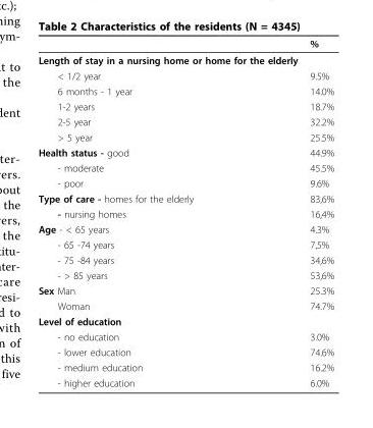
<table><thead><tr><td></td><td>%</td></tr></thead><tbody><tr><td colspan="2">Length of stay in a nursing home or home for the elderly</td></tr><tr><td>&lt; 1/2 year</td><td>9.5%</td></tr><tr><td>6 months - 1 year</td><td>14.0%</td></tr><tr><td>1-2 years</td><td>18.7%</td></tr><tr><td>2-5 year</td><td>32.2%</td></tr><tr><td>&gt; 5 year</td><td>25.5%</td></tr><tr><td>Health status - good</td><td>44.9%</td></tr><tr><td>- moderate</td><td>45.5%</td></tr><tr><td>- poor</td><td>9.6%</td></tr><tr><td>Type of care - homes for the elderly</td><td>83,6%</td></tr><tr><td>- nursing homes</td><td>16,4%</td></tr><tr><td>Age - &lt; 65 years</td><td>4.3%</td></tr><tr><td>- 65 -74 years</td><td>7,5%</td></tr><tr><td>- 75 -84 years</td><td>34,6%</td></tr><tr><td>- &gt; 85 years</td><td>53,6%</td></tr><tr><td>Sex Man</td><td>25.3%</td></tr><tr><td>Woman</td><td>74.7%</td></tr><tr><td colspan="2">Level of education</td></tr><tr><td>- no education</td><td>3.0%</td></tr><tr><td>- lower education</td><td>74.6%</td></tr><tr><td>- medium education</td><td>16.2%</td></tr><tr><td>- higher education</td><td>6.0%</td></tr></tbody></table>